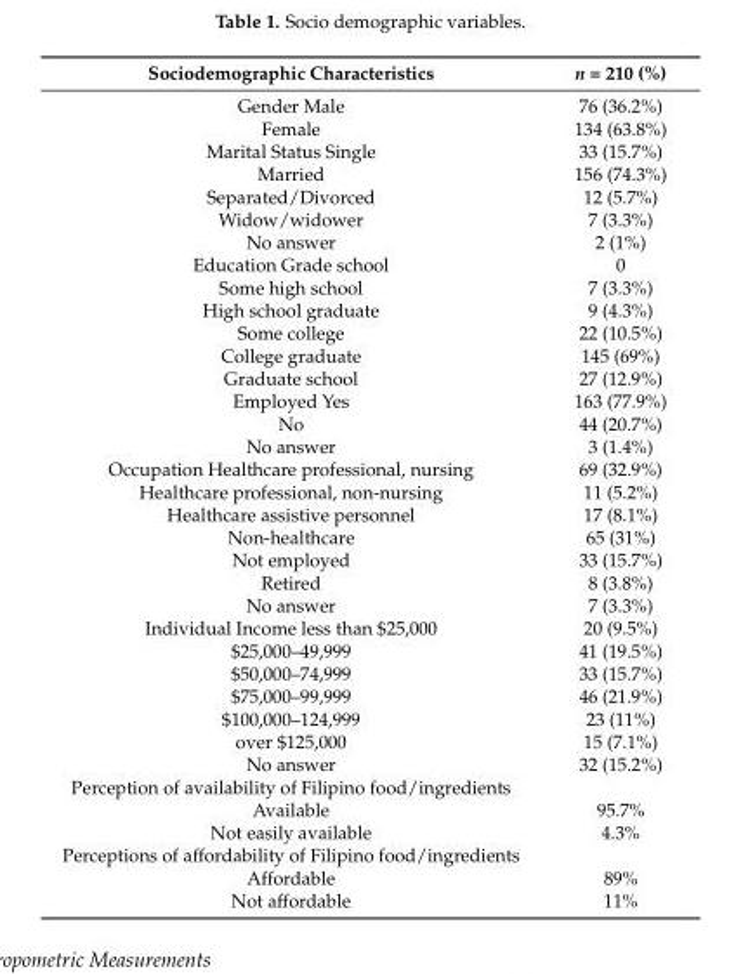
<table><thead><tr><td>Sociodemographic Characteristics</td><td>n = 210 (%)</td></tr></thead><tbody><tr><td>Gender Male</td><td>76 (36.2%)</td></tr><tr><td>Female</td><td>134 (63.8%)</td></tr><tr><td>Marital Status Single</td><td>33 (15.7%)</td></tr><tr><td>Married</td><td>156 (74.3%)</td></tr><tr><td>Separated/Divorced</td><td>12 (5.7%)</td></tr><tr><td>Widow/widower</td><td>7 (3.3%)</td></tr><tr><td>No answer</td><td>2 (1%)</td></tr><tr><td>Education Grade school</td><td>0</td></tr><tr><td>Some high school</td><td>7 (3.3%)</td></tr><tr><td>High school graduate</td><td>9 (4.3%)</td></tr><tr><td>Some college</td><td>22 (10.5%)</td></tr><tr><td>College graduate</td><td>145 (69%)</td></tr><tr><td>Graduate school</td><td>27 (12.9%)</td></tr><tr><td>Employed Yes</td><td>163 (77.9%)</td></tr><tr><td>No</td><td>44 (20.7%)</td></tr><tr><td>No answer</td><td>3 (1.4%)</td></tr><tr><td>Occupation Healthcare professional, nursing</td><td>69 (32.9%)</td></tr><tr><td>Healthcare professional, non-nursing</td><td>11 (5.2%)</td></tr><tr><td>Healthcare assistive personnel</td><td>17 (8.1%)</td></tr><tr><td>Non-healthcare</td><td>65 (31%)</td></tr><tr><td>Not employed</td><td>33 (15.7%)</td></tr><tr><td>Retired</td><td>8 (3.8%)</td></tr><tr><td>No answer</td><td>7 (3.3%)</td></tr><tr><td>Individual Income less than $25,000</td><td>20 (9.5%)</td></tr><tr><td>$25,000–49,999</td><td>41 (19.5%)</td></tr><tr><td>$50,000–74,999</td><td>33 (15.7%)</td></tr><tr><td>$75,000–99,999</td><td>46 (21.9%)</td></tr><tr><td>$100,000–124,999</td><td>23 (11%)</td></tr><tr><td>over $125,000</td><td>15 (7.1%)</td></tr><tr><td>No answer</td><td>32 (15.2%)</td></tr><tr><td colspan="2">Perception of availability of Filipino food/ingredients</td></tr><tr><td>Available</td><td>95.7%</td></tr><tr><td>Not easily available</td><td>4.3%</td></tr><tr><td colspan="2">Perceptions of affordability of Filipino food/ingredients</td></tr><tr><td>Affordable</td><td>89%</td></tr><tr><td>Not affordable</td><td>11%</td></tr></tbody></table>